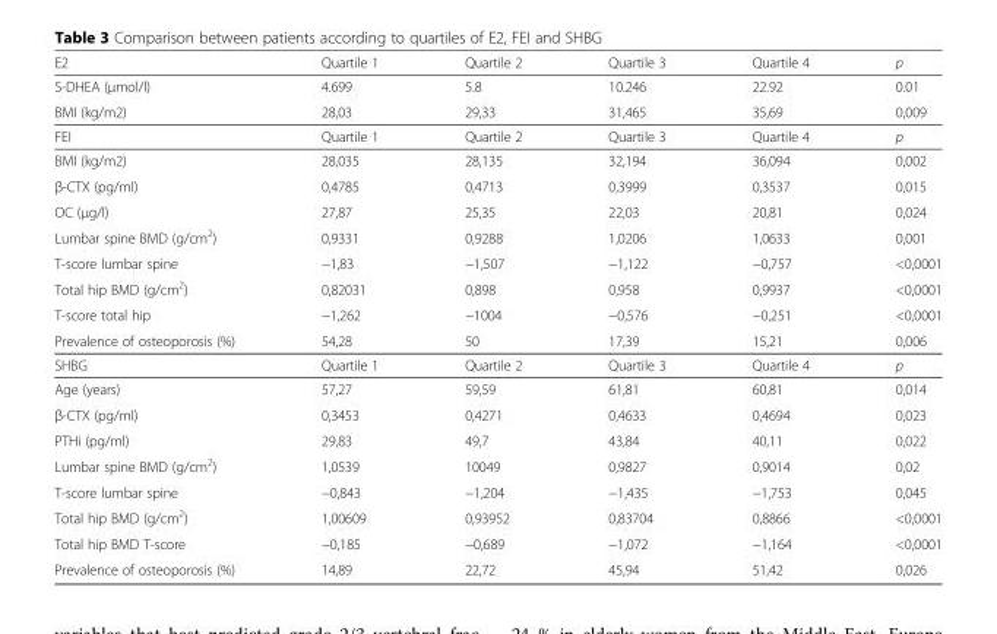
<table><thead><tr><td>E2</td><td>Quartile 1</td><td>Quartile 2</td><td>Quartile 3</td><td>Quartile 4</td><td>p</td></tr></thead><tbody><tr><td>S-DHEA (μmol/l)</td><td>4.699</td><td>5.8</td><td>10.246</td><td>22.92</td><td>0.01</td></tr><tr><td>BMI (kg/m2)</td><td>28,03</td><td>29,33</td><td>31,465</td><td>35,69</td><td>0,009</td></tr><tr><td>FEI</td><td>Quartile 1</td><td>Quartile 2</td><td>Quartile 3</td><td>Quartile 4</td><td>p</td></tr><tr><td>BMI (kg/m2)</td><td>28,035</td><td>28,135</td><td>32,194</td><td>36,094</td><td>0,002</td></tr><tr><td>β-CTX (pg/ml)</td><td>0,4785</td><td>0,4713</td><td>0,3999</td><td>0,3537</td><td>0,015</td></tr><tr><td>OC (μg/l)</td><td>27,87</td><td>25,35</td><td>22,03</td><td>20,81</td><td>0,024</td></tr><tr><td>Lumbar spine BMD (g/cm<sup>2</sup>)</td><td>0,9331</td><td>0,9288</td><td>1,0206</td><td>1,0633</td><td>0,001</td></tr><tr><td>T-score lumbar spine</td><td>−1,83</td><td>−1,507</td><td>−1,122</td><td>−0,757</td><td>&lt;0,0001</td></tr><tr><td>Total hip BMD (g/cm<sup>2</sup>)</td><td>0,82031</td><td>0,898</td><td>0,958</td><td>0,9937</td><td>&lt;0,0001</td></tr><tr><td>T-score total hip</td><td>−1,262</td><td>−1004</td><td>−0,576</td><td>−0,251</td><td>&lt;0,0001</td></tr><tr><td>Prevalence of osteoporosis (%)</td><td>54,28</td><td>50</td><td>17,39</td><td>15,21</td><td>0,006</td></tr><tr><td>SHBG</td><td>Quartile 1</td><td>Quartile 2</td><td>Quartile 3</td><td>Quartile 4</td><td>p</td></tr><tr><td>Age (years)</td><td>57,27</td><td>59,59</td><td>61,81</td><td>60,81</td><td>0,014</td></tr><tr><td>β-CTX (pg/ml)</td><td>0,3453</td><td>0,4271</td><td>0,4633</td><td>0,4694</td><td>0,023</td></tr><tr><td>PTHi (pg/ml)</td><td>29,83</td><td>49,7</td><td>43,84</td><td>40,11</td><td>0,022</td></tr><tr><td>Lumbar spine BMD (g/cm<sup>2</sup>)</td><td>1,0539</td><td>10049</td><td>0,9827</td><td>0,9014</td><td>0,02</td></tr><tr><td>T-score lumbar spine</td><td>−0,843</td><td>−1,204</td><td>−1,435</td><td>−1,753</td><td>0,045</td></tr><tr><td>Total hip BMD (g/cm<sup>2</sup>)</td><td>1,00609</td><td>0,93952</td><td>0,83704</td><td>0,8866</td><td>&lt;0,0001</td></tr><tr><td>Total hip BMD T-score</td><td>−0,185</td><td>−0,689</td><td>−1,072</td><td>−1,164</td><td>&lt;0,0001</td></tr><tr><td>Prevalence of osteoporosis (%)</td><td>14,89</td><td>22,72</td><td>45,94</td><td>51,42</td><td>0,026</td></tr></tbody></table>